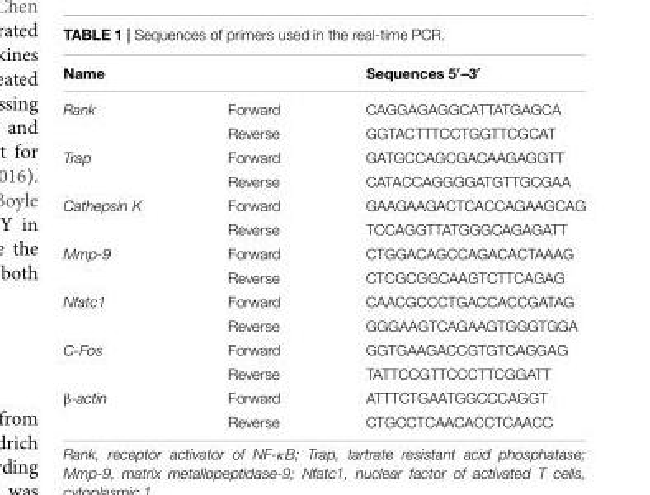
<table><thead><tr><td>Name</td><td></td><td>Sequences 5′–3′</td></tr></thead><tbody><tr><td rowspan="2">Rank</td><td>Forward</td><td>CAGGAGAGGCATTATGAGCA</td></tr><tr><td>Reverse</td><td>GGTACTTTCCTGGTTCGCAT</td></tr><tr><td rowspan="2">Trap</td><td>Forward</td><td>GATGCCAGCGACAAGAGGTT</td></tr><tr><td>Reverse</td><td>CATACCAGGGGATGTTGCGAA</td></tr><tr><td rowspan="2">Cathepsin K</td><td>Forward</td><td>GAAGAAGACTCACCAGAAGCAG</td></tr><tr><td>Reverse</td><td>TCCAGGTTATGGGCAGAGATT</td></tr><tr><td rowspan="2">Mmp-9</td><td>Forward</td><td>CTGGACAGCCAGACACTAAAG</td></tr><tr><td>Reverse</td><td>CTCGCGGCAAGTCTTCAGAG</td></tr><tr><td rowspan="2">Nfatc1</td><td>Forward</td><td>CAACGCCCTGACCACCGATAG</td></tr><tr><td>Reverse</td><td>GGGAAGTCAGAAGTGGGTGGA</td></tr><tr><td rowspan="2">C-Fos</td><td>Forward</td><td>GGTGAAGACCGTGTCAGGAG</td></tr><tr><td>Reverse</td><td>TATTCCGTTCCCTTCGGATT</td></tr><tr><td rowspan="2">β-actin</td><td>Forward</td><td>ATTTCTGAATGGCCCAGGT</td></tr><tr><td>Reverse</td><td>CTGCCTCAACACCTCAACC</td></tr></tbody></table>